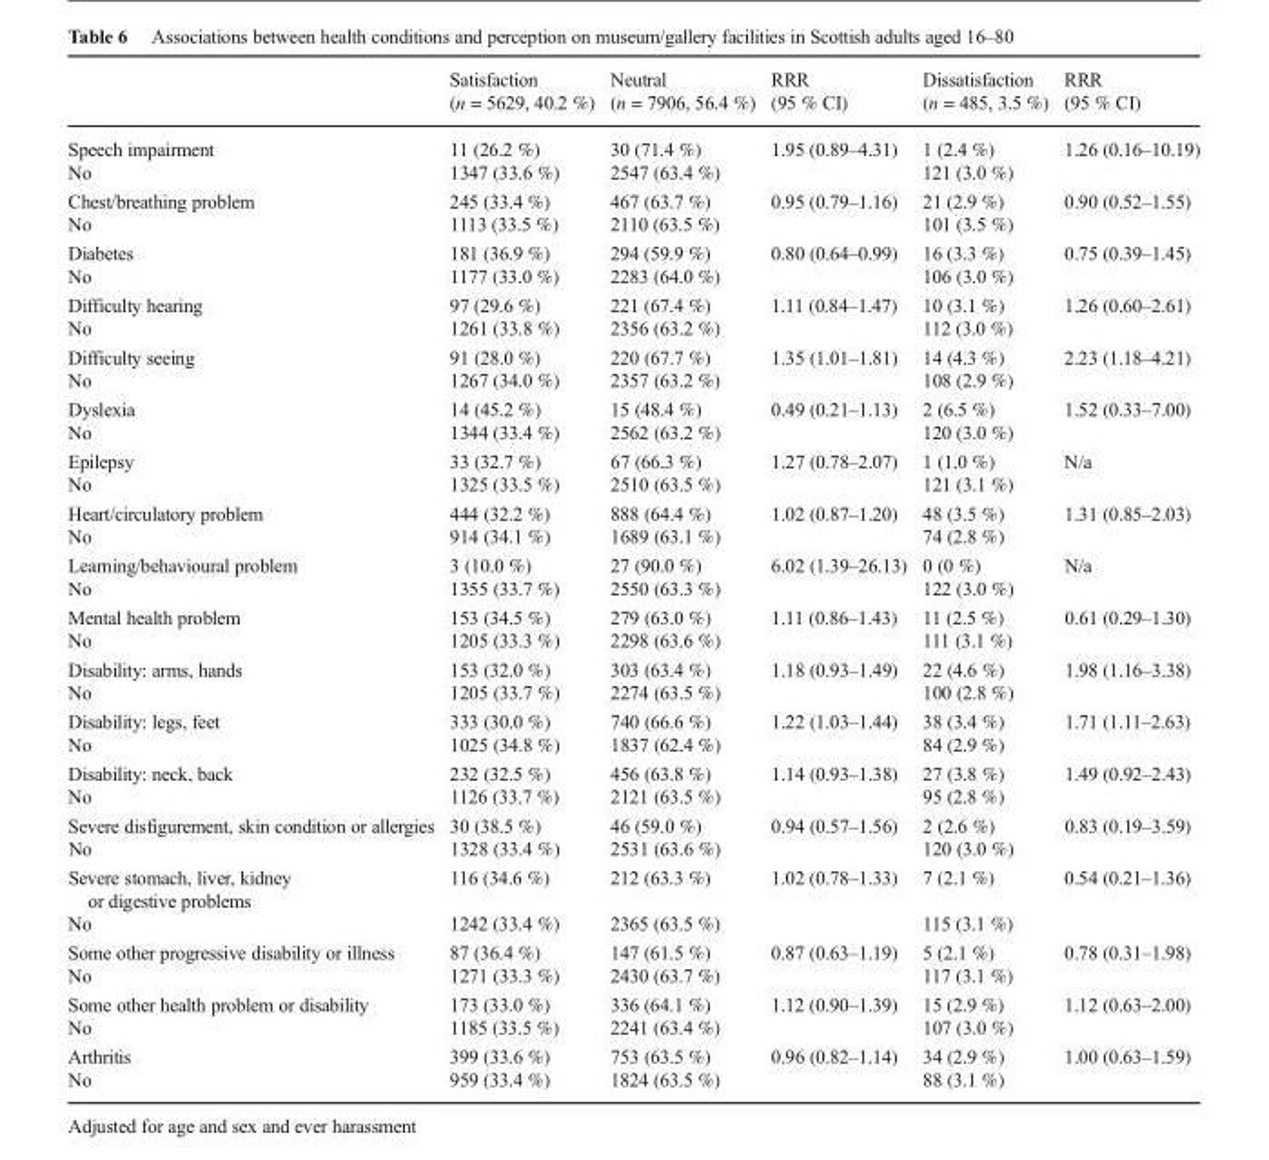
<table><thead><tr><td></td><td>Satisfaction (n = 5629, 40.2 %)</td><td>Neutral (n = 7906, 56.4 %)</td><td>RRR (95 % CI)</td><td>Dissatisfaction (n = 485, 3.5 %)</td><td>RRR (95 % CI)</td></tr></thead><tbody><tr><td>Speech impairment</td><td>11 (26.2 %)</td><td>30 (71.4 %)</td><td rowspan="2">1.95 (0.89–4.31)</td><td>1 (2.4 %)</td><td rowspan="2">1.26 (0.16–10.19)</td></tr><tr><td>No</td><td>1347 (33.6 %)</td><td>2547 (63.4 %)</td><td>121 (3.0 %)</td></tr><tr><td>Chest/breathing problem</td><td>245 (33.4 %)</td><td>467 (63.7 %)</td><td rowspan="2">0.95 (0.79–1.16)</td><td>21 (2.9 %)</td><td rowspan="2">0.90 (0.52–1.55)</td></tr><tr><td>No</td><td>1113 (33.5 %)</td><td>2110 (63.5 %)</td><td>101 (3.5 %)</td></tr><tr><td>Diabetes</td><td>181 (36.9 %)</td><td>294 (59.9 %)</td><td rowspan="2">0.80 (0.64–0.99)</td><td>16 (3.3 %)</td><td rowspan="2">0.75 (0.39–1.45)</td></tr><tr><td>No</td><td>1177 (33.0 %)</td><td>2283 (64.0 %)</td><td>106 (3.0 %)</td></tr><tr><td>Difficulty hearing</td><td>97 (29.6 %)</td><td>221 (67.4 %)</td><td rowspan="2">1.11 (0.84–1.47)</td><td>10 (3.1 %)</td><td rowspan="2">1.26 (0.60–2.61)</td></tr><tr><td>No</td><td>1261 (33.8 %)</td><td>2356 (63.2 %)</td><td>112 (3.0 %)</td></tr><tr><td>Difficulty seeing</td><td>91 (28.0 %)</td><td>220 (67.7 %)</td><td rowspan="2">1.35 (1.01–1.81)</td><td>14 (4.3 %)</td><td rowspan="2">2.23 (1.18–4.21)</td></tr><tr><td>No</td><td>1267 (34.0 %)</td><td>2357 (63.2 %)</td><td>108 (2.9 %)</td></tr><tr><td>Dyslexia</td><td>14 (45.2 %)</td><td>15 (48.4 %)</td><td rowspan="2">0.49 (0.21–1.13)</td><td>2 (6.5 %)</td><td rowspan="2">1.52 (0.33–7.00)</td></tr><tr><td>No</td><td>1344 (33.4 %)</td><td>2562 (63.2 %)</td><td>120 (3.0 %)</td></tr><tr><td>Epilepsy</td><td>33 (32.7 %)</td><td>67 (66.3 %)</td><td rowspan="2">1.27 (0.78–2.07)</td><td>1 (1.0 %)</td><td rowspan="2">N/a</td></tr><tr><td>No</td><td>1325 (33.5 %)</td><td>2510 (63.5 %)</td><td>121 (3.1 %)</td></tr><tr><td>Heart/circulatory problem</td><td>444 (32.2 %)</td><td>888 (64.4 %)</td><td rowspan="2">1.02 (0.87–1.20)</td><td>48 (3.5 %)</td><td rowspan="2">1.31 (0.85–2.03)</td></tr><tr><td>No</td><td>914 (34.1 %)</td><td>1689 (63.1 %)</td><td>74 (2.8 %)</td></tr><tr><td>Learning/behavioural problem</td><td>3 (10.0 %)</td><td>27 (90.0 %)</td><td rowspan="2">6.02 (1.39–26.13)</td><td>0 (0 %)</td><td rowspan="2">N/a</td></tr><tr><td>No</td><td>1355 (33.7 %)</td><td>2550 (63.3 %)</td><td>122 (3.0 %)</td></tr><tr><td>Mental health problem</td><td>153 (34.5 %)</td><td>279 (63.0 %)</td><td rowspan="2">1.11 (0.86–1.43)</td><td>11 (2.5 %)</td><td rowspan="2">0.61 (0.29–1.30)</td></tr><tr><td>No</td><td>1205 (33.3 %)</td><td>2298 (63.6 %)</td><td>111 (3.1 %)</td></tr><tr><td>Disability: arms, hands</td><td>153 (32.0 %)</td><td>303 (63.4 %)</td><td rowspan="2">1.18 (0.93–1.49)</td><td>22 (4.6 %)</td><td rowspan="2">1.98 (1.16–3.38)</td></tr><tr><td>No</td><td>1205 (33.7 %)</td><td>2274 (63.5 %)</td><td>100 (2.8 %)</td></tr><tr><td>Disability: legs, feet</td><td>333 (30.0 %)</td><td>740 (66.6 %)</td><td rowspan="2">1.22 (1.03–1.44)</td><td>38 (3.4 %)</td><td rowspan="2">1.71 (1.11–2.63)</td></tr><tr><td>No</td><td>1025 (34.8 %)</td><td>1837 (62.4 %)</td><td>84 (2.9 %)</td></tr><tr><td>Disability: neck, back</td><td>232 (32.5 %)</td><td>456 (63.8 %)</td><td rowspan="2">1.14 (0.93–1.38)</td><td>27 (3.8 %)</td><td rowspan="2">1.49 (0.92–2.43)</td></tr><tr><td>No</td><td>1126 (33.7 %)</td><td>2121 (63.5 %)</td><td>95 (2.8 %)</td></tr><tr><td>Severe disfigurement, skin condition or allergies</td><td>30 (38.5 %)</td><td>46 (59.0 %)</td><td rowspan="2">0.94 (0.57–1.56)</td><td>2 (2.6 %)</td><td rowspan="2">0.83 (0.19–3.59)</td></tr><tr><td>No</td><td>1328 (33.4 %)</td><td>2531 (63.6 %)</td><td>120 (3.0 %)</td></tr><tr><td>Severe stomach, liver, kidney or digestive problems</td><td>116 (34.6 %)</td><td>212 (63.3 %)</td><td rowspan="2">1.02 (0.78–1.33)</td><td>7 (2.1 %)</td><td rowspan="2">0.54 (0.21–1.36)</td></tr><tr><td>No</td><td>1242 (33.4 %)</td><td>2365 (63.5 %)</td><td>115 (3.1 %)</td></tr><tr><td>Some other progressive disability or illness</td><td>87 (36.4 %)</td><td>147 (61.5 %)</td><td rowspan="2">0.87 (0.63–1.19)</td><td>5 (2.1 %)</td><td rowspan="2">0.78 (0.31–1.98)</td></tr><tr><td>No</td><td>1271 (33.3 %)</td><td>2430 (63.7 %)</td><td>117 (3.1 %)</td></tr><tr><td>Some other health problem or disability</td><td>173 (33.0 %)</td><td>336 (64.1 %)</td><td rowspan="2">1.12 (0.90–1.39)</td><td>15 (2.9 %)</td><td rowspan="2">1.12 (0.63–2.00)</td></tr><tr><td>No</td><td>1185 (33.5 %)</td><td>2241 (63.4 %)</td><td>107 (3.0 %)</td></tr><tr><td>Arthritis</td><td>399 (33.6 %)</td><td>753 (63.5 %)</td><td rowspan="2">0.96 (0.82–1.14)</td><td>34 (2.9 %)</td><td rowspan="2">1.00 (0.63–1.59)</td></tr><tr><td>No</td><td>959 (33.4 %)</td><td>1824 (63.5 %)</td><td>88 (3.1 %)</td></tr></tbody></table>